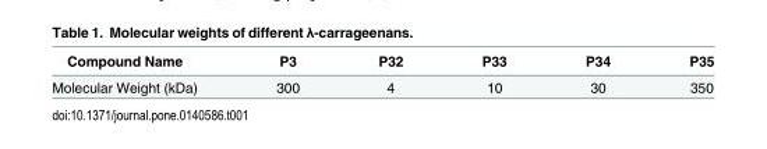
<table><thead><tr><td>Compound Name</td><td>P3</td><td>P32</td><td>P33</td><td>P34</td><td>P35</td></tr></thead><tbody><tr><td>Molecular Weight (kDa)</td><td>300</td><td>4</td><td>10</td><td>30</td><td>350</td></tr></tbody></table>